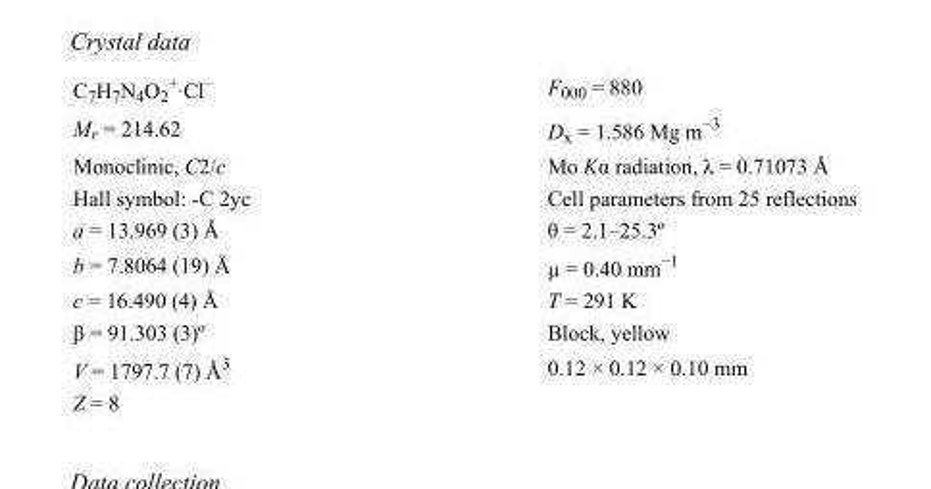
<table><tbody><tr><td>C<sub>7</sub>H<sub>7</sub>N<sub>4</sub>O<sub>2</sub> <sup>+</sup>·Cl<sup>–</sup></td><td>F000 = 880</td></tr><tr><td>M<sub>r</sub> = 214.62</td><td>D<sub>x</sub> = 1.586 Mg m<sup>−3</sup></td></tr><tr><td>Monoclinic, C2/c</td><td>Mo Kα radiation, λ = 0.71073 Å</td></tr><tr><td>Hall symbol: -C 2yc</td><td>Cell parameters from 25 reflections</td></tr><tr><td>a = 13.969 (3) Å</td><td>θ = 2.1–25.3º</td></tr><tr><td>b = 7.8064 (19) Å</td><td>µ = 0.40 mm<sup>−1</sup></td></tr><tr><td>c = 16.490 (4) Å</td><td>T = 291 K</td></tr><tr><td>β = 91.303 (3)º</td><td>Block, yellow</td></tr><tr><td>V = 1797.7 (7) Å<sup>3</sup></td><td>0.12 × 0.12 × 0.10 mm</td></tr><tr><td>Z = 8</td><td></td></tr></tbody></table>